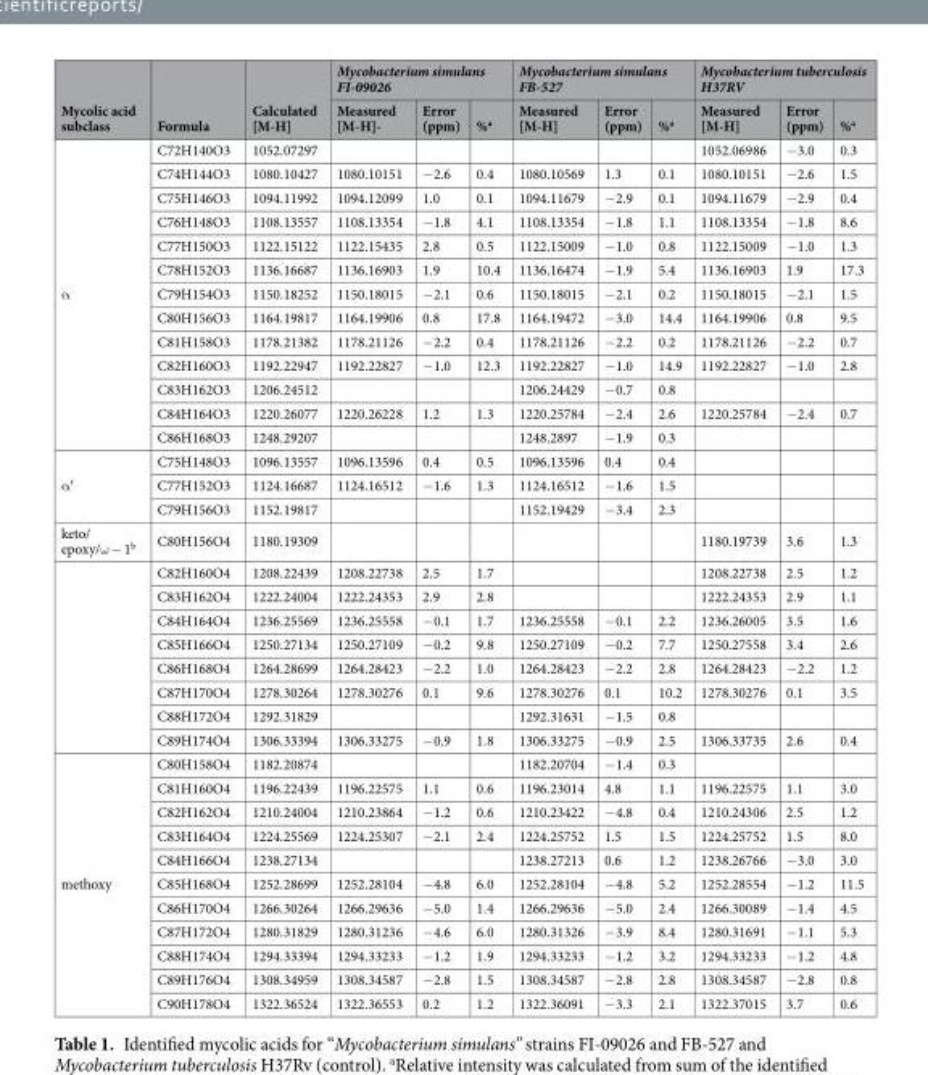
<table><thead><tr><td rowspan="2">Mycolic acid subclass</td><td rowspan="2">Formula</td><td rowspan="2">Calculated [M-H]</td><td colspan="3">Mycobacterium simulans FI-09026</td><td colspan="3">Mycobacterium simulans FB-527</td><td colspan="3">Mycobacterium tuberculosis H37RV</td></tr><tr><td>Measured [M-H]-</td><td>Error (ppm)</td><td>%a</td><td>Measured [M-H]</td><td>Error (ppm)</td><td>%a</td><td>Measured [M-H]</td><td>Error (ppm)</td><td>%a</td></tr></thead><tbody><tr><td rowspan="13">α</td><td>C72H140O3</td><td>1052.07297</td><td></td><td></td><td></td><td></td><td></td><td></td><td>1052.06986</td><td>−3.0</td><td>0.3</td></tr><tr><td>C74H144O3</td><td>1080.10427</td><td>1080.10151</td><td>−2.6</td><td>0.4</td><td>1080.10569</td><td>1.3</td><td>0.1</td><td>1080.10151</td><td>−2.6</td><td>1.5</td></tr><tr><td>C75H146O3</td><td>1094.11992</td><td>1094.12099</td><td>1.0</td><td>0.1</td><td>1094.11679</td><td>−2.9</td><td>0.1</td><td>1094.11679</td><td>−2.9</td><td>0.4</td></tr><tr><td>C76H148O3</td><td>1108.13557</td><td>1108.13354</td><td>−1.8</td><td>4.1</td><td>1108.13354</td><td>−1.8</td><td>1.1</td><td>1108.13354</td><td>−1.8</td><td>8.6</td></tr><tr><td>C77H150O3</td><td>1122.15122</td><td>1122.15435</td><td>2.8</td><td>0.5</td><td>1122.15009</td><td>−1.0</td><td>0.8</td><td>1122.15009</td><td>−1.0</td><td>1.3</td></tr><tr><td>C78H152O3</td><td>1136.16687</td><td>1136.16903</td><td>1.9</td><td>10.4</td><td>1136.16474</td><td>−1.9</td><td>5.4</td><td>1136.16903</td><td>1.9</td><td>17.3</td></tr><tr><td>C79H154O3</td><td>1150.18252</td><td>1150.18015</td><td>−2.1</td><td>0.6</td><td>1150.18015</td><td>−2.1</td><td>0.2</td><td>1150.18015</td><td>−2.1</td><td>1.5</td></tr><tr><td>C80H156O3</td><td>1164.19817</td><td>1164.19906</td><td>0.8</td><td>17.8</td><td>1164.19472</td><td>−3.0</td><td>14.4</td><td>1164.19906</td><td>0.8</td><td>9.5</td></tr><tr><td>C81H158O3</td><td>1178.21382</td><td>1178.21126</td><td>−2.2</td><td>0.4</td><td>1178.21126</td><td>−2.2</td><td>0.2</td><td>1178.21126</td><td>−2.2</td><td>0.7</td></tr><tr><td>C82H160O3</td><td>1192.22947</td><td>1192.22827</td><td>−1.0</td><td>12.3</td><td>1192.22827</td><td>−1.0</td><td>14.9</td><td>1192.22827</td><td>−1.0</td><td>2.8</td></tr><tr><td>C83H162O3</td><td>1206.24512</td><td></td><td></td><td></td><td>1206.24429</td><td>−0.7</td><td>0.8</td><td></td><td></td><td></td></tr><tr><td>C84H164O3</td><td>1220.26077</td><td>1220.26228</td><td>1.2</td><td>1.3</td><td>1220.25784</td><td>−2.4</td><td>2.6</td><td>1220.25784</td><td>−2.4</td><td>0.7</td></tr><tr><td>C86H168O3</td><td>1248.29207</td><td></td><td></td><td></td><td>1248.2897</td><td>−1.9</td><td>0.3</td><td></td><td></td><td></td></tr><tr><td rowspan="3">α′</td><td>C75H148O3</td><td>1096.13557</td><td>1096.13596</td><td>0.4</td><td>0.5</td><td>1096.13596</td><td>0.4</td><td>0.4</td><td></td><td></td><td></td></tr><tr><td>C77H152O3</td><td>1124.16687</td><td>1124.16512</td><td>−1.6</td><td>1.3</td><td>1124.16512</td><td>−1.6</td><td>1.5</td><td></td><td></td><td></td></tr><tr><td>C79H156O3</td><td>1152.19817</td><td></td><td></td><td></td><td>1152.19429</td><td>−3.4</td><td>2.3</td><td></td><td></td><td></td></tr><tr><td rowspan="9">keto/ epoxy/ω − 1b</td><td>C80H156O4</td><td>1180.19309</td><td></td><td></td><td></td><td></td><td></td><td></td><td>1180.19739</td><td>3.6</td><td>1.3</td></tr><tr><td>C82H160O4</td><td>1208.22439</td><td>1208.22738</td><td>2.5</td><td>1.7</td><td></td><td></td><td></td><td>1208.22738</td><td>2.5</td><td>1.2</td></tr><tr><td>C83H162O4</td><td>1222.24004</td><td>1222.24353</td><td>2.9</td><td>2.8</td><td></td><td></td><td></td><td>1222.24353</td><td>2.9</td><td>1.1</td></tr><tr><td>C84H164O4</td><td>1236.25569</td><td>1236.25558</td><td>−0.1</td><td>1.7</td><td>1236.25558</td><td>−0.1</td><td>2.2</td><td>1236.26005</td><td>3.5</td><td>1.6</td></tr><tr><td>C85H166O4</td><td>1250.27134</td><td>1250.27109</td><td>−0.2</td><td>9.8</td><td>1250.27109</td><td>−0.2</td><td>7.7</td><td>1250.27558</td><td>3.4</td><td>2.6</td></tr><tr><td>C86H168O4</td><td>1264.28699</td><td>1264.28423</td><td>−2.2</td><td>1.0</td><td>1264.28423</td><td>−2.2</td><td>2.8</td><td>1264.28423</td><td>−2.2</td><td>1.2</td></tr><tr><td>C87H170O4</td><td>1278.30264</td><td>1278.30276</td><td>0.1</td><td>9.6</td><td>1278.30276</td><td>0.1</td><td>10.2</td><td>1278.30276</td><td>0.1</td><td>3.5</td></tr><tr><td>C88H172O4</td><td>1292.31829</td><td></td><td></td><td></td><td>1292.31631</td><td>−1.5</td><td>0.8</td><td></td><td></td><td></td></tr><tr><td>C89H174O4</td><td>1306.33394</td><td>1306.33275</td><td>−0.9</td><td>1.8</td><td>1306.33275</td><td>−0.9</td><td>2.5</td><td>1306.33735</td><td>2.6</td><td>0.4</td></tr><tr><td rowspan="11">methoxy</td><td>C80H158O4</td><td>1182.20874</td><td></td><td></td><td></td><td>1182.20704</td><td>−1.4</td><td>0.3</td><td></td><td></td><td></td></tr><tr><td>C81H160O4</td><td>1196.22439</td><td>1196.22575</td><td>1.1</td><td>0.6</td><td>1196.23014</td><td>4.8</td><td>1.1</td><td>1196.22575</td><td>1.1</td><td>3.0</td></tr><tr><td>C82H162O4</td><td>1210.24004</td><td>1210.23864</td><td>−1.2</td><td>0.6</td><td>1210.23422</td><td>−4.8</td><td>0.4</td><td>1210.24306</td><td>2.5</td><td>1.2</td></tr><tr><td>C83H164O4</td><td>1224.25569</td><td>1224.25307</td><td>−2.1</td><td>2.4</td><td>1224.25752</td><td>1.5</td><td>1.5</td><td>1224.25752</td><td>1.5</td><td>8.0</td></tr><tr><td>C84H166O4</td><td>1238.27134</td><td></td><td></td><td></td><td>1238.27213</td><td>0.6</td><td>1.2</td><td>1238.26766</td><td>−3.0</td><td>3.0</td></tr><tr><td>C85H168O4</td><td>1252.28699</td><td>1252.28104</td><td>−4.8</td><td>6.0</td><td>1252.28104</td><td>−4.8</td><td>5.2</td><td>1252.28554</td><td>−1.2</td><td>11.5</td></tr><tr><td>C86H170O4</td><td>1266.30264</td><td>1266.29636</td><td>−5.0</td><td>1.4</td><td>1266.29636</td><td>−5.0</td><td>2.4</td><td>1266.30089</td><td>−1.4</td><td>4.5</td></tr><tr><td>C87H172O4</td><td>1280.31829</td><td>1280.31236</td><td>−4.6</td><td>6.0</td><td>1280.31326</td><td>−3.9</td><td>8.4</td><td>1280.31691</td><td>−1.1</td><td>5.3</td></tr><tr><td>C88H174O4</td><td>1294.33394</td><td>1294.33233</td><td>−1.2</td><td>1.9</td><td>1294.33233</td><td>−1.2</td><td>3.2</td><td>1294.33233</td><td>−1.2</td><td>4.8</td></tr><tr><td>C89H176O4</td><td>1308.34959</td><td>1308.34587</td><td>−2.8</td><td>1.5</td><td>1308.34587</td><td>−2.8</td><td>2.8</td><td>1308.34587</td><td>−2.8</td><td>0.8</td></tr><tr><td>C90H178O4</td><td>1322.36524</td><td>1322.36553</td><td>0.2</td><td>1.2</td><td>1322.36091</td><td>−3.3</td><td>2.1</td><td>1322.37015</td><td>3.7</td><td>0.6</td></tr></tbody></table>